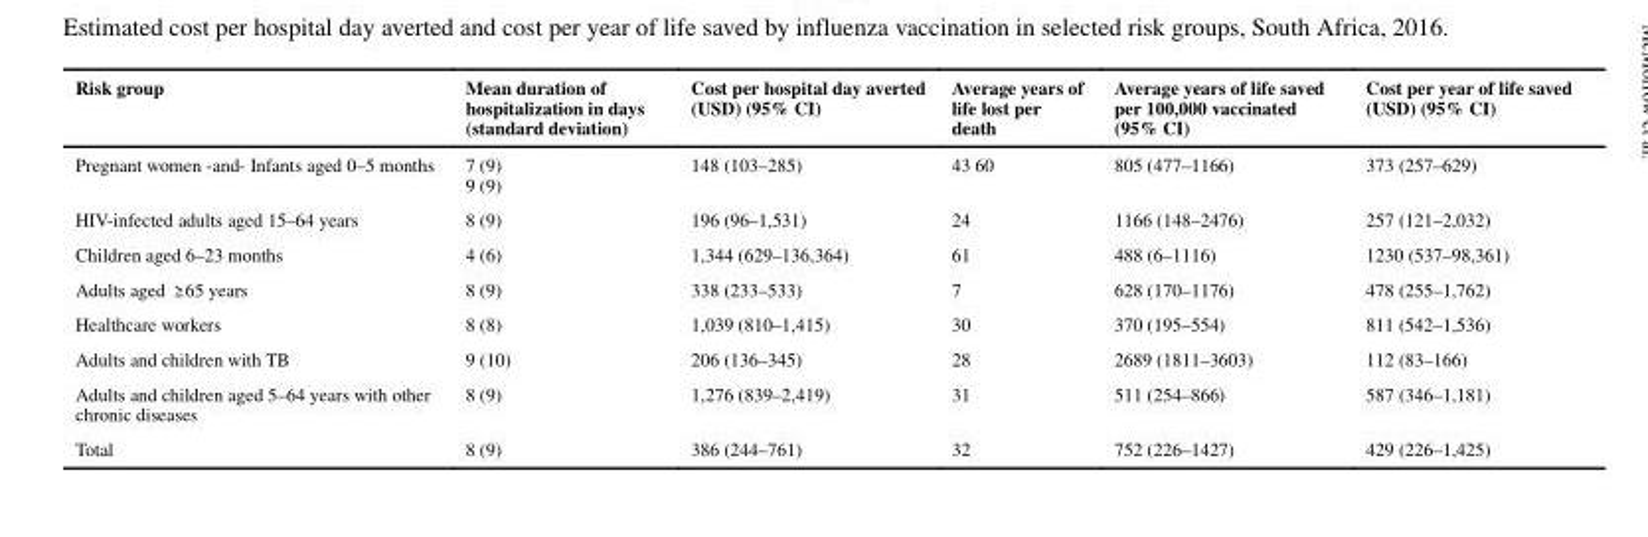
<table><thead><tr><td>Risk group</td><td>Mean duration of hospitalization in days (standard deviation)</td><td>Cost per hospital day averted (USD) (95% CI)</td><td>Average years of life lost per death</td><td>Average years of life saved per 100,000 vaccinated (95% CI)</td><td>Cost per year of life saved (USD) (95% CI)</td></tr></thead><tbody><tr><td>Pregnant women -and- Infants aged 0–5 months</td><td>7 (9) 9 (9)</td><td>148 (103–285)</td><td>43 60</td><td>805 (477–1166)</td><td>373 (257–629)</td></tr><tr><td>HIV-infected adults aged 15–64 years</td><td>8 (9)</td><td>196 (96–1,531)</td><td>24</td><td>1166 (148–2476)</td><td>257 (121–2,032)</td></tr><tr><td>Children aged 6–23 months</td><td>4 (6)</td><td>1,344 (629–136,364)</td><td>61</td><td>488 (6–1116)</td><td>1230 (537–98,361)</td></tr><tr><td>Adults aged ≥ 65 years</td><td>8 (9)</td><td>338 (233–533)</td><td>7</td><td>628 (170–1176)</td><td>478 (255–1,762)</td></tr><tr><td>Healthcare workers</td><td>8 (8)</td><td>1,039 (810–1,415)</td><td>30</td><td>370 (195–554)</td><td>811 (542–1,536)</td></tr><tr><td>Adults and children with TB</td><td>9 (10)</td><td>206 (136–345)</td><td>28</td><td>2689 (1811–3603)</td><td>112 (83–166)</td></tr><tr><td>Adults and children aged 5–64 years with other chronic diseases</td><td>8 (9)</td><td>1,276 (839–2,419)</td><td>31</td><td>511 (254–866)</td><td>587 (346–1,181)</td></tr><tr><td>Total</td><td>8 (9)</td><td>386 (244–761)</td><td>32</td><td>752 (226–1427)</td><td>429 (226–1,425)</td></tr></tbody></table>